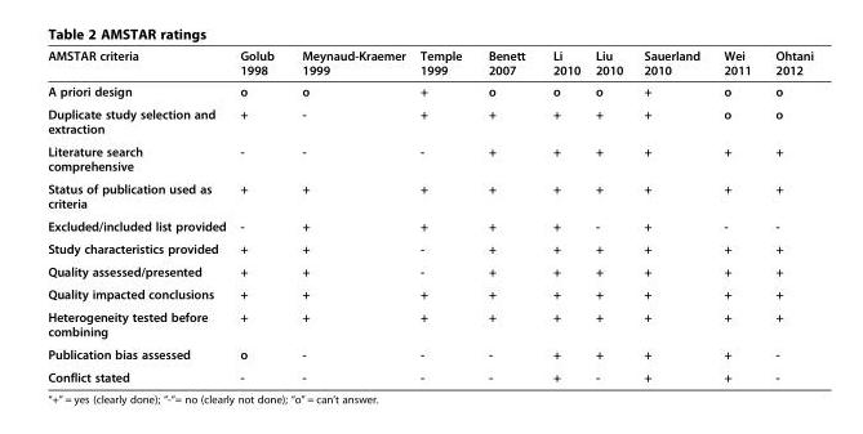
<table><thead><tr><td>AMSTAR criteria</td><td>Golub 1998</td><td>Meynaud-Kraemer 1999</td><td>Temple 1999</td><td>Benett 2007</td><td>Li 2010</td><td>Liu 2010</td><td>Sauerland 2010</td><td>Wei 2011</td><td>Ohtani 2012</td></tr></thead><tbody><tr><td>A priori design</td><td>o</td><td>o</td><td>+</td><td>o</td><td>o</td><td>o</td><td>+</td><td>o</td><td>o</td></tr><tr><td>Duplicate study selection and extraction</td><td>+</td><td>-</td><td>+</td><td>+</td><td>+</td><td>+</td><td>+</td><td>o</td><td>o</td></tr><tr><td>Literature search comprehensive</td><td>-</td><td>-</td><td>-</td><td>+</td><td>+</td><td>+</td><td>+</td><td>+</td><td>+</td></tr><tr><td>Status of publication used as criteria</td><td>+</td><td>+</td><td>+</td><td>+</td><td>+</td><td>+</td><td>+</td><td>+</td><td>+</td></tr><tr><td>Excluded/included list provided</td><td>-</td><td>+</td><td>+</td><td>+</td><td>+</td><td>-</td><td>+</td><td>-</td><td>-</td></tr><tr><td>Study characteristics provided</td><td>+</td><td>+</td><td>-</td><td>+</td><td>+</td><td>+</td><td>+</td><td>+</td><td>+</td></tr><tr><td>Quality assessed/presented</td><td>+</td><td>+</td><td>-</td><td>+</td><td>+</td><td>+</td><td>+</td><td>+</td><td>+</td></tr><tr><td>Quality impacted conclusions</td><td>+</td><td>+</td><td>+</td><td>+</td><td>+</td><td>+</td><td>+</td><td>+</td><td>+</td></tr><tr><td>Heterogeneity tested before combining</td><td>+</td><td>+</td><td>+</td><td>+</td><td>+</td><td>+</td><td>+</td><td>+</td><td>+</td></tr><tr><td>Publication bias assessed</td><td>o</td><td>-</td><td>-</td><td>-</td><td>+</td><td>+</td><td>+</td><td>+</td><td>-</td></tr><tr><td>Conflict stated</td><td>-</td><td>-</td><td>-</td><td>-</td><td>+</td><td>-</td><td>+</td><td>+</td><td>-</td></tr></tbody></table>